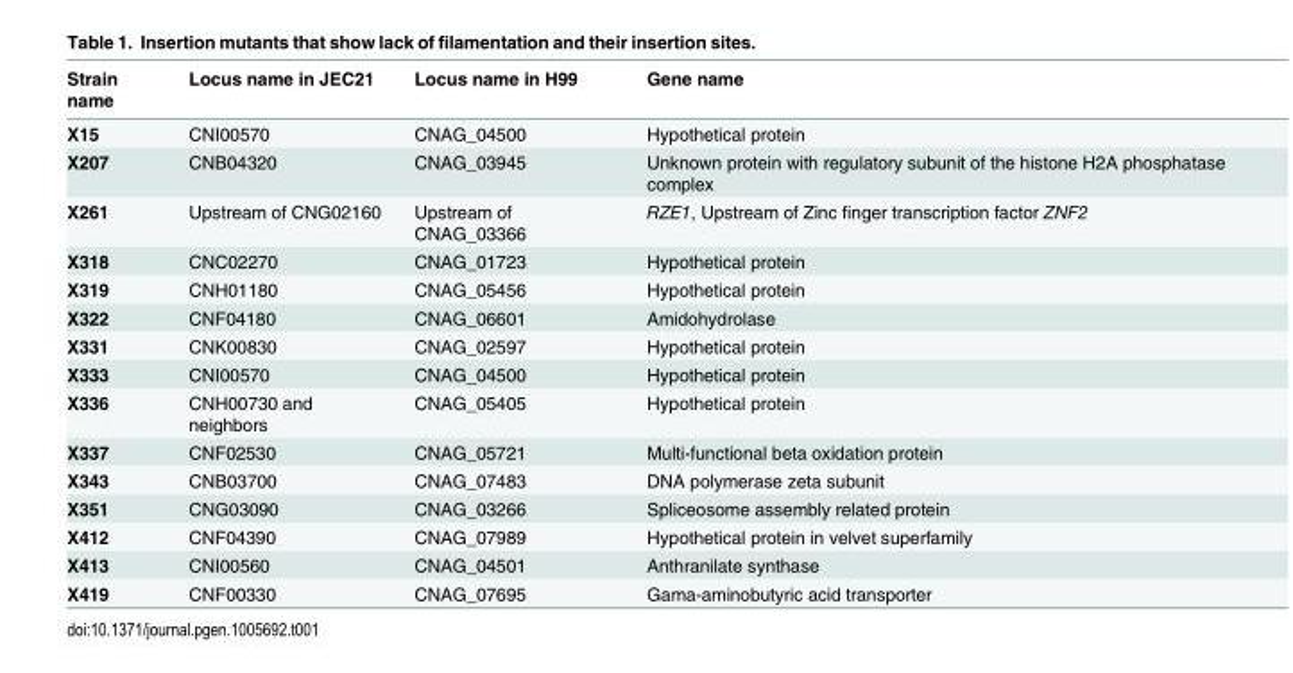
<table><thead><tr><td>Strain name</td><td>Locus name in JEC21</td><td>Locus name in H99</td><td>Gene name</td></tr></thead><tbody><tr><td>X15</td><td>CNI00570</td><td>CNAG_04500</td><td>Hypothetical protein</td></tr><tr><td>X207</td><td>CNB04320</td><td>CNAG_03945</td><td>Unknown protein with regulatory subunit of the histone H2A phosphatase complex</td></tr><tr><td>X261</td><td>Upstream of CNG02160</td><td>Upstream of CNAG_03366</td><td>RZE1, Upstream of Zinc finger transcription factor ZNF2</td></tr><tr><td>X318</td><td>CNC02270</td><td>CNAG_01723</td><td>Hypothetical protein</td></tr><tr><td>X319</td><td>CNH01180</td><td>CNAG_05456</td><td>Hypothetical protein</td></tr><tr><td>X322</td><td>CNF04180</td><td>CNAG_06601</td><td>Amidohydrolase</td></tr><tr><td>X331</td><td>CNK00830</td><td>CNAG_02597</td><td>Hypothetical protein</td></tr><tr><td>X333</td><td>CNI00570</td><td>CNAG_04500</td><td>Hypothetical protein</td></tr><tr><td>X336</td><td>CNH00730 and neighbors</td><td>CNAG_05405</td><td>Hypothetical protein</td></tr><tr><td>X337</td><td>CNF02530</td><td>CNAG_05721</td><td>Multi-functional beta oxidation protein</td></tr><tr><td>X343</td><td>CNB03700</td><td>CNAG_07483</td><td>DNA polymerase zeta subunit</td></tr><tr><td>X351</td><td>CNG03090</td><td>CNAG_03266</td><td>Spliceosome assembly related protein</td></tr><tr><td>X412</td><td>CNF04390</td><td>CNAG_07989</td><td>Hypothetical protein in velvet superfamily</td></tr><tr><td>X413</td><td>CNI00560</td><td>CNAG_04501</td><td>Anthranilate synthase</td></tr><tr><td>X419</td><td>CNF00330</td><td>CNAG_07695</td><td>Gama-aminobutyric acid transporter</td></tr></tbody></table>